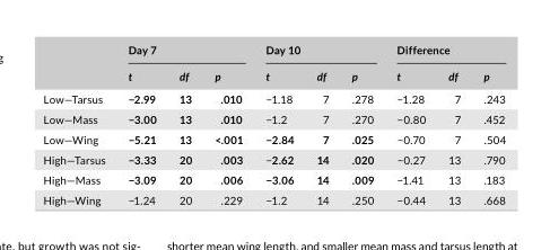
<table><thead><tr><td rowspan="2"></td><td colspan="3">Day 7</td><td colspan="3">Day 10</td><td colspan="3">Difference</td></tr><tr><td>t</td><td>df</td><td>p</td><td>t</td><td>df</td><td>p</td><td>t</td><td>df</td><td>p</td></tr></thead><tbody><tr><td>Low—Tarsus</td><td>−2.99</td><td>13</td><td>.010</td><td>−1.18</td><td>7</td><td>.278</td><td>−1.28</td><td>7</td><td>.243</td></tr><tr><td>Low—Mass</td><td>−3.00</td><td>13</td><td>.010</td><td>−1.2</td><td>7</td><td>.270</td><td>−0.80</td><td>7</td><td>.452</td></tr><tr><td>Low—Wing</td><td>−5.21</td><td>13</td><td>&lt;.001</td><td>−2.84</td><td>7</td><td>.025</td><td>−0.70</td><td>7</td><td>.504</td></tr><tr><td>High—Tarsus</td><td>−3.33</td><td>20</td><td>.003</td><td>−2.62</td><td>14</td><td>.020</td><td>−0.27</td><td>13</td><td>.790</td></tr><tr><td>High—Mass</td><td>−3.09</td><td>20</td><td>.006</td><td>−3.06</td><td>14</td><td>.009</td><td>−1.41</td><td>13</td><td>.183</td></tr><tr><td>High—Wing</td><td>−1.24</td><td>20</td><td>.229</td><td>−1.2</td><td>14</td><td>.250</td><td>−0.44</td><td>13</td><td>.668</td></tr></tbody></table>